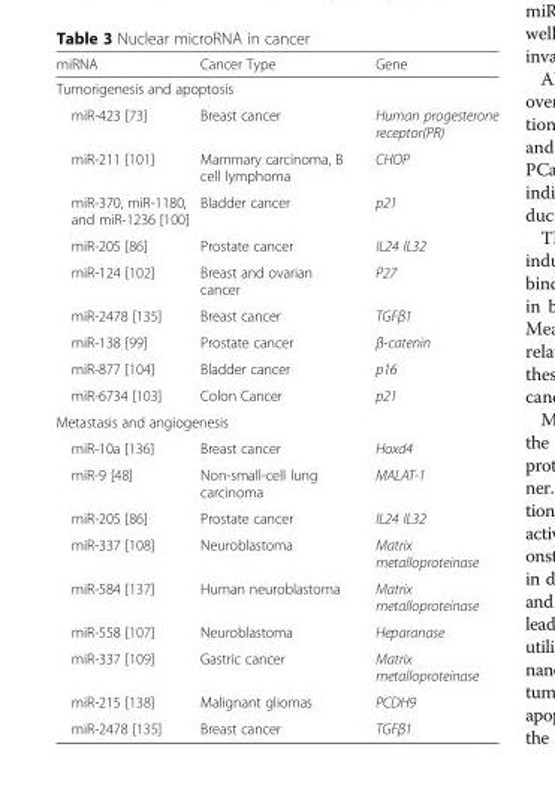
<table><thead><tr><td>miRNA</td><td>Cancer Type</td><td>Gene</td></tr></thead><tbody><tr><td colspan="3">Tumorigenesis and apoptosis</td></tr><tr><td>miR-423 [73]</td><td>Breast cancer</td><td>Human progesterone receptor(PR)</td></tr><tr><td>miR-211 [101]</td><td>Mammary carcinoma, B cell lymphoma</td><td>CHOP</td></tr><tr><td>miR-370, miR-1180, and miR-1236 [100]</td><td>Bladder cancer</td><td>p21</td></tr><tr><td>miR-205 [86]</td><td>Prostate cancer</td><td>IL24 IL32</td></tr><tr><td>miR-124 [102]</td><td>Breast and ovarian cancer</td><td>P27</td></tr><tr><td>miR-2478 [135]</td><td>Breast cancer</td><td>TGFβ1</td></tr><tr><td>miR-138 [99]</td><td>Prostate cancer</td><td>β-catenin</td></tr><tr><td>miR-877 [104]</td><td>Bladder cancer</td><td>p16</td></tr><tr><td>miR-6734 [103]</td><td>Colon Cancer</td><td>p21</td></tr><tr><td colspan="3">Metastasis and angiogenesis</td></tr><tr><td>miR-10a [136]</td><td>Breast cancer</td><td>Hoxd4</td></tr><tr><td>miR-9 [48]</td><td>Non-small-cell lung carcinoma</td><td>MALAT-1</td></tr><tr><td>miR-205 [86]</td><td>Prostate cancer</td><td>IL24 IL32</td></tr><tr><td>miR-337 [108]</td><td>Neuroblastoma</td><td>Matrix metalloproteinase</td></tr><tr><td>miR-584 [137]</td><td>Human neuroblastoma</td><td>Matrix metalloproteinase</td></tr><tr><td>miR-558 [107]</td><td>Neuroblastoma</td><td>Heparanase</td></tr><tr><td>miR-337 [109]</td><td>Gastric cancer</td><td>Matrix metalloproteinase</td></tr><tr><td>miR-215 [138]</td><td>Malignant gliomas</td><td>PCDH9</td></tr><tr><td>miR-2478 [135]</td><td>Breast cancer</td><td>TGFβ1</td></tr></tbody></table>